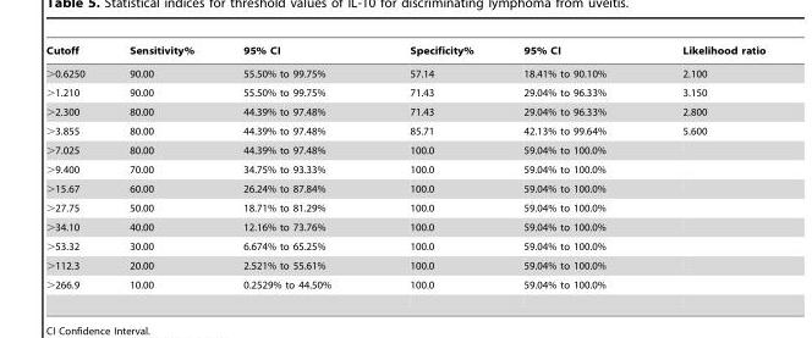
<table><thead><tr><td>Cutoff</td><td>Sensitivity%</td><td>95% CI</td><td>Specificity%</td><td>95% CI</td><td>Likelihood ratio</td></tr></thead><tbody><tr><td>&gt;0.6250</td><td>90.00</td><td>55.50% to 99.75%</td><td>57.14</td><td>18.41% to 90.10%</td><td>2.100</td></tr><tr><td>&gt;1.210</td><td>90.00</td><td>55.50% to 99.75%</td><td>71.43</td><td>29.04% to 96.33%</td><td>3.150</td></tr><tr><td>&gt;2.300</td><td>80.00</td><td>44.39% to 97.48%</td><td>71.43</td><td>29.04% to 96.33%</td><td>2.800</td></tr><tr><td>&gt;3.855</td><td>80.00</td><td>44.39% to 97.48%</td><td>85.71</td><td>42.13% to 99.64%</td><td>5.600</td></tr><tr><td>&gt;7.025</td><td>80.00</td><td>44.39% to 97.48%</td><td>100.0</td><td>59.04% to 100.0%</td><td></td></tr><tr><td>&gt;9.400</td><td>70.00</td><td>34.75% to 93.33%</td><td>100.0</td><td>59.04% to 100.0%</td><td></td></tr><tr><td>&gt;15.67</td><td>60.00</td><td>26.24% to 87.84%</td><td>100.0</td><td>59.04% to 100.0%</td><td></td></tr><tr><td>&gt;27.75</td><td>50.00</td><td>18.71% to 81.29%</td><td>100.0</td><td>59.04% to 100.0%</td><td></td></tr><tr><td>&gt;34.10</td><td>40.00</td><td>12.16% to 73.76%</td><td>100.0</td><td>59.04% to 100.0%</td><td></td></tr><tr><td>&gt;53.32</td><td>30.00</td><td>6.674% to 65.25%</td><td>100.0</td><td>59.04% to 100.0%</td><td></td></tr><tr><td>&gt;112.3</td><td>20.00</td><td>2.521% to 55.61%</td><td>100.0</td><td>59.04% to 100.0%</td><td></td></tr><tr><td>&gt;266.9</td><td>10.00</td><td>0.2529% to 44.50%</td><td>100.0</td><td>59.04% to 100.0%</td><td></td></tr></tbody></table>